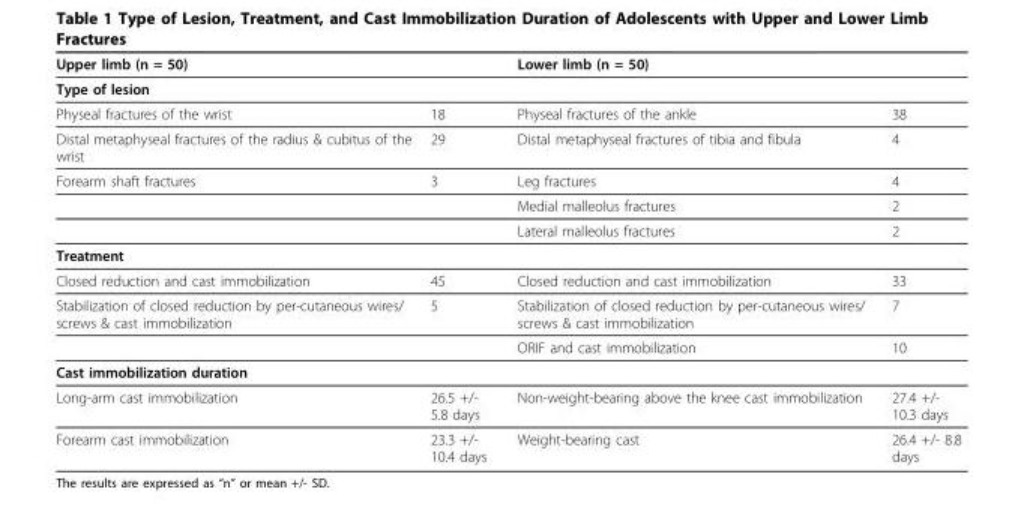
<table><thead><tr><td colspan="2">Upper limb (n = 50)</td><td colspan="2">Lower limb (n = 50)</td></tr><tr><td colspan="4">Type of lesion</td></tr><tr><td>Physeal fractures of the wrist</td><td>18</td><td>Physeal fractures of the ankle</td><td>38</td></tr></thead><tbody><tr><td>Distal metaphyseal fractures of the radius &amp; cubitus of the wrist</td><td>29</td><td>Distal metaphyseal fractures of tibia and fibula</td><td>4</td></tr><tr><td rowspan="3">Forearm shaft fractures</td><td>3</td><td>Leg fractures</td><td>4</td></tr><tr><td></td><td>Medial malleolus fractures</td><td>2</td></tr><tr><td></td><td>Lateral malleolus fractures</td><td>2</td></tr><tr><td colspan="4">Treatment</td></tr><tr><td>Closed reduction and cast immobilization</td><td>45</td><td>Closed reduction and cast immobilization</td><td>33</td></tr><tr><td rowspan="2">Stabilization of closed reduction by per-cutaneous wires/ screws &amp; cast immobilization</td><td>5</td><td>Stabilization of closed reduction by per-cutaneous wires/ screws &amp; cast immobilization</td><td>7</td></tr><tr><td></td><td>ORIF and cast immobilization</td><td>10</td></tr><tr><td colspan="4">Cast immobilization duration</td></tr><tr><td>Long-arm cast immobilization</td><td>26.5 +/- 5.8 days</td><td>Non-weight-bearing above the knee cast immobilization</td><td>27.4 +/- 10.3 days</td></tr><tr><td>Forearm cast immobilization</td><td>23.3 +/- 10.4 days</td><td>Weight-bearing cast</td><td>26.4 +/- 8.8 days</td></tr></tbody></table>